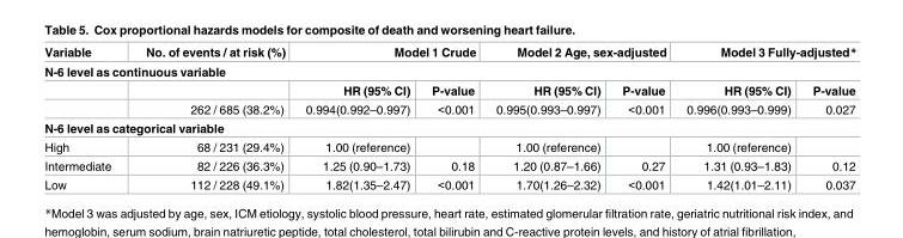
<table><thead><tr><td>Variable</td><td>No. of events / at risk (%)</td><td colspan="2">Model 1 Crude</td><td colspan="2">Model 2 Age, sex-adjusted</td><td colspan="2">Model 3 Fully-adjusted*</td></tr><tr><td colspan="8">N-6 level as continuous variable</td></tr><tr><td></td><td></td><td>HR (95% CI)</td><td>P-value</td><td>HR (95% CI)</td><td>P-value</td><td>HR (95% CI)</td><td>P-value</td></tr></thead><tbody><tr><td></td><td>262 / 685 (38.2%)</td><td>0.994(0.992–0.997)</td><td>&lt;0.001</td><td>0.995(0.993–0.997)</td><td>&lt;0.001</td><td>0.996(0.993–0.999)</td><td>0.027</td></tr><tr><td colspan="8">N-6 level as categorical variable</td></tr><tr><td>High</td><td>68 / 231 (29.4%)</td><td>1.00 (reference)</td><td></td><td>1.00 (reference)</td><td></td><td>1.00 (reference)</td><td></td></tr><tr><td>Intermediate</td><td>82 / 226 (36.3%)</td><td>1.25 (0.90–1.73)</td><td>0.18</td><td>1.20 (0.87–1.66)</td><td>0.27</td><td>1.31 (0.93–1.83)</td><td>0.12</td></tr><tr><td>Low</td><td>112 / 228 (49.1%)</td><td>1.82(1.35–2.47)</td><td>&lt;0.001</td><td>1.70(1.26–2.32)</td><td>&lt;0.001</td><td>1.42(1.01–2.11)</td><td>0.037</td></tr></tbody></table>